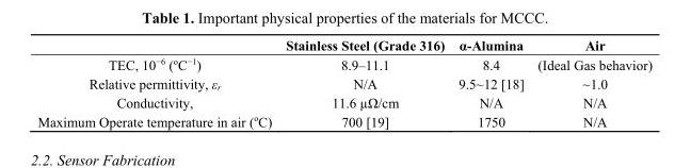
<table><thead><tr><td></td><td>Stainless Steel (Grade 316)</td><td>α-Alumina</td><td>Air</td></tr></thead><tbody><tr><td>TEC, 10<sup>−6</sup> (<sup>o</sup>C<sup>−1</sup>)</td><td>8.9–11.1</td><td>8.4</td><td>(Ideal Gas behavior)</td></tr><tr><td>Relative permittivity, ε<sub>r</sub></td><td>N/A</td><td>9.5~12 [18]</td><td>~1.0</td></tr><tr><td>Conductivity,</td><td>11.6 µΩ/cm</td><td>N/A</td><td>N/A</td></tr><tr><td>Maximum Operate temperature in air (<sup>o</sup>C)</td><td>700 [19]</td><td>1750</td><td>N/A</td></tr></tbody></table>